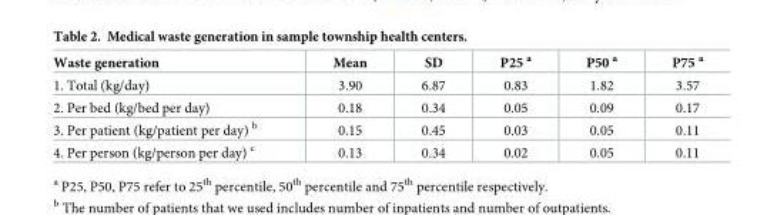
<table><thead><tr><td>Waste generation</td><td>Mean</td><td>SD</td><td>P25 <sup>a</sup></td><td>P50 <sup>a</sup></td><td>P75 <sup>a</sup></td></tr></thead><tbody><tr><td>1. Total (kg/day)</td><td>3.90</td><td>6.87</td><td>0.83</td><td>1.82</td><td>3.57</td></tr><tr><td>2. Per bed (kg/bed per day)</td><td>0.18</td><td>0.34</td><td>0.05</td><td>0.09</td><td>0.17</td></tr><tr><td>3. Per patient (kg/patient per day) <sup>b</sup></td><td>0.15</td><td>0.45</td><td>0.03</td><td>0.05</td><td>0.11</td></tr><tr><td>4. Per person (kg/person per day) <sup>c</sup></td><td>0.13</td><td>0.34</td><td>0.02</td><td>0.05</td><td>0.11</td></tr></tbody></table>